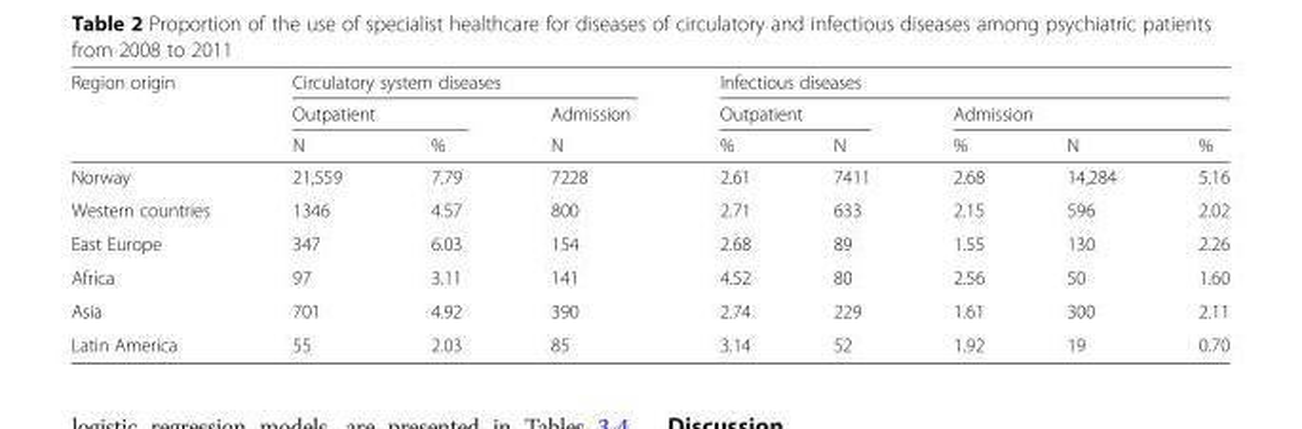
<table><thead><tr><td rowspan="3">Region origin</td><td colspan="3">Circulatory system diseases</td><td colspan="5">Infectious diseases</td></tr><tr><td colspan="2">Outpatient</td><td rowspan="2">Admission N</td><td colspan="2">Outpatient</td><td colspan="3">Admission</td></tr><tr><td>N</td><td>%</td><td>%</td><td>N</td><td>%</td><td>N</td><td>%</td></tr></thead><tbody><tr><td>Norway</td><td>21,559</td><td>7.79</td><td>7228</td><td>2.61</td><td>7411</td><td>2.68</td><td>14,284</td><td>5.16</td></tr><tr><td>Western countries</td><td>1346</td><td>4.57</td><td>800</td><td>2.71</td><td>633</td><td>2.15</td><td>596</td><td>2.02</td></tr><tr><td>East Europe</td><td>347</td><td>6.03</td><td>154</td><td>2.68</td><td>89</td><td>1.55</td><td>130</td><td>2.26</td></tr><tr><td>Africa</td><td>97</td><td>3.11</td><td>141</td><td>4.52</td><td>80</td><td>2.56</td><td>50</td><td>1.60</td></tr><tr><td>Asia</td><td>701</td><td>4.92</td><td>390</td><td>2.74</td><td>229</td><td>1.61</td><td>300</td><td>2.11</td></tr><tr><td>Latin America</td><td>55</td><td>2.03</td><td>85</td><td>3.14</td><td>52</td><td>1.92</td><td>19</td><td>0.70</td></tr></tbody></table>